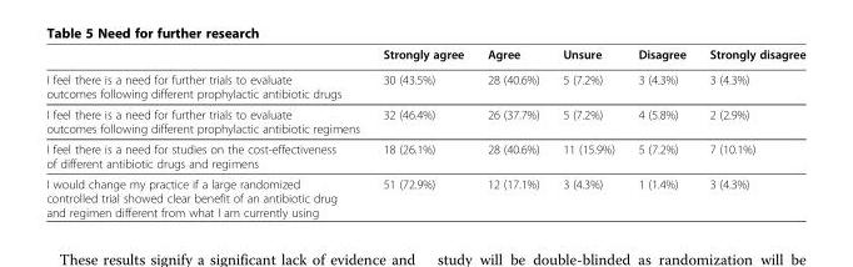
<table><thead><tr><td></td><td>Strongly agree</td><td>Agree</td><td>Unsure</td><td>Disagree</td><td>Strongly disagree</td></tr></thead><tbody><tr><td>I feel there is a need for further trials to evaluate outcomes following different prophylactic antibiotic drugs</td><td>30 (43.5%)</td><td>28 (40.6%)</td><td>5 (7.2%)</td><td>3 (4.3%)</td><td>3 (4.3%)</td></tr><tr><td>I feel there is a need for further trials to evaluate outcomes following different prophylactic antibiotic regimens</td><td>32 (46.4%)</td><td>26 (37.7%)</td><td>5 (7.2%)</td><td>4 (5.8%)</td><td>2 (2.9%)</td></tr><tr><td>I feel there is a need for studies on the cost-effectiveness of different antibiotic drugs and regimens</td><td>18 (26.1%)</td><td>28 (40.6%)</td><td>11 (15.9%)</td><td>5 (7.2%)</td><td>7 (10.1%)</td></tr><tr><td>I would change my practice if a large randomized controlled trial showed clear benefit of an antibiotic drug and regimen different from what I am currently using</td><td>51 (72.9%)</td><td>12 (17.1%)</td><td>3 (4.3%)</td><td>1 (1.4%)</td><td>3 (4.3%)</td></tr></tbody></table>